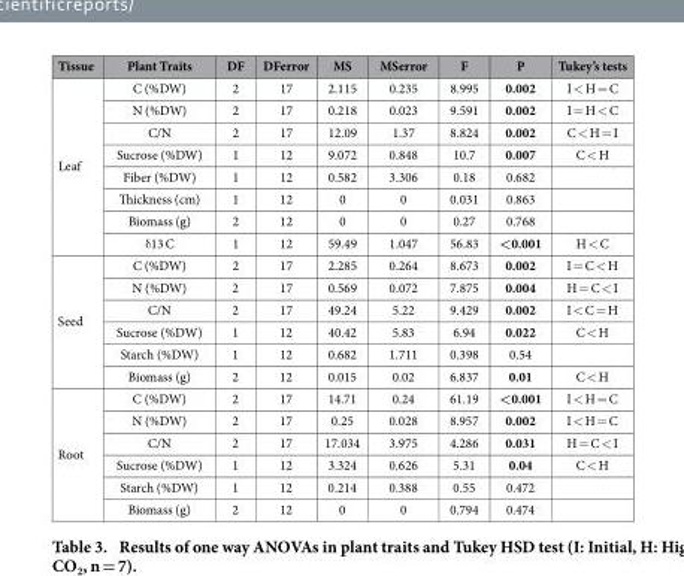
<table><thead><tr><td>Tissue</td><td>Plant Traits</td><td>DF</td><td>DFerror</td><td>MS</td><td>MSerror</td><td>F</td><td>P</td><td>Tukey’s tests</td></tr></thead><tbody><tr><td rowspan="8">Leaf</td><td>C (%DW)</td><td>2</td><td>17</td><td>2.115</td><td>0.235</td><td>8.995</td><td>0.002</td><td>I &lt; H = C</td></tr><tr><td>N (%DW)</td><td>2</td><td>17</td><td>0.218</td><td>0.023</td><td>9.591</td><td>0.002</td><td>I = H &lt; C</td></tr><tr><td>C/N</td><td>2</td><td>17</td><td>12.09</td><td>1.37</td><td>8.824</td><td>0.002</td><td>C &lt; H = I</td></tr><tr><td>Sucrose (%DW)</td><td>1</td><td>12</td><td>9.072</td><td>0.848</td><td>10.7</td><td>0.007</td><td>C &lt; H</td></tr><tr><td>Fiber (%DW)</td><td>1</td><td>12</td><td>0.582</td><td>3.306</td><td>0.18</td><td>0.682</td><td></td></tr><tr><td>Thickness (cm)</td><td>1</td><td>12</td><td>0</td><td>0</td><td>0.031</td><td>0.863</td><td></td></tr><tr><td>Biomass (g)</td><td>2</td><td>12</td><td>0</td><td>0</td><td>0.27</td><td>0.768</td><td></td></tr><tr><td>δ 13 C</td><td>1</td><td>12</td><td>59.49</td><td>1.047</td><td>56.83</td><td>&lt;0.001</td><td>H &lt; C</td></tr><tr><td rowspan="6">Seed</td><td>C (%DW)</td><td>2</td><td>17</td><td>2.285</td><td>0.264</td><td>8.673</td><td>0.002</td><td>I = C &lt; H</td></tr><tr><td>N (%DW)</td><td>2</td><td>17</td><td>0.569</td><td>0.072</td><td>7.875</td><td>0.004</td><td>H = C &lt; I</td></tr><tr><td>C/N</td><td>2</td><td>17</td><td>49.24</td><td>5.22</td><td>9.429</td><td>0.002</td><td>I &lt; C = H</td></tr><tr><td>Sucrose (%DW)</td><td>1</td><td>12</td><td>40.42</td><td>5.83</td><td>6.94</td><td>0.022</td><td>C &lt; H</td></tr><tr><td>Starch (%DW)</td><td>1</td><td>12</td><td>0.682</td><td>1.711</td><td>0.398</td><td>0.54</td><td></td></tr><tr><td>Biomass (g)</td><td>2</td><td>12</td><td>0.015</td><td>0.02</td><td>6.837</td><td>0.01</td><td>C &lt; H</td></tr><tr><td rowspan="6">Root</td><td>C (%DW)</td><td>2</td><td>17</td><td>14.71</td><td>0.24</td><td>61.19</td><td>&lt;0.001</td><td>I &lt; H = C</td></tr><tr><td>N (%DW)</td><td>2</td><td>17</td><td>0.25</td><td>0.028</td><td>8.957</td><td>0.002</td><td>I &lt; H = C</td></tr><tr><td>C/N</td><td>2</td><td>17</td><td>17.034</td><td>3.975</td><td>4.286</td><td>0.031</td><td>H = C &lt; I</td></tr><tr><td>Sucrose (%DW)</td><td>1</td><td>12</td><td>3.324</td><td>0.626</td><td>5.31</td><td>0.04</td><td>C &lt; H</td></tr><tr><td>Starch (%DW)</td><td>1</td><td>12</td><td>0.214</td><td>0.388</td><td>0.55</td><td>0.472</td><td></td></tr><tr><td>Biomass (g)</td><td>2</td><td>12</td><td>0</td><td>0</td><td>0.794</td><td>0.474</td><td></td></tr></tbody></table>